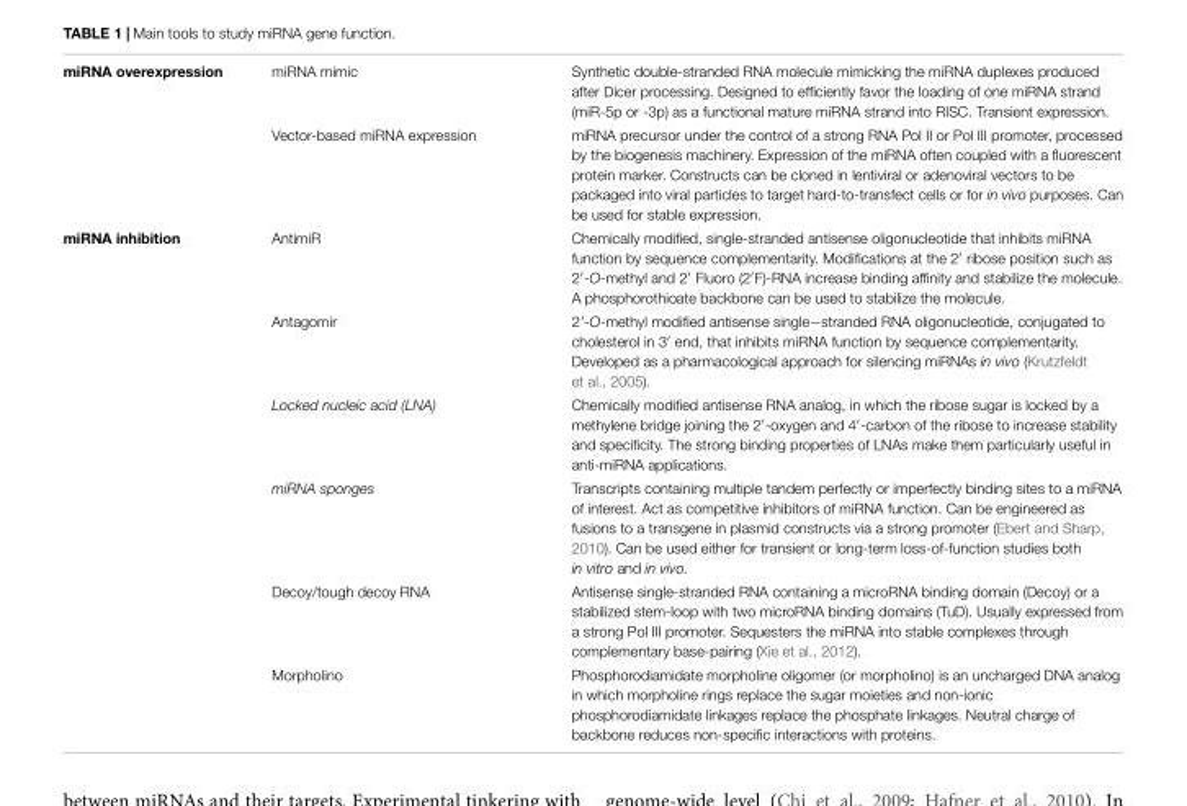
<table><tbody><tr><td rowspan="2">miRNA overexpression</td><td>miRNA mimic</td><td>Synthetic double-stranded RNA molecule mimicking the miRNA duplexes produced after Dicer processing. Designed to efficiently favor the loading of one miRNA strand (miR-5p or -3p) as a functional mature miRNA strand into RISC. Transient expression.</td></tr><tr><td>Vector-based miRNA expression</td><td>miRNA precursor under the control of a strong RNA Pol II or Pol III promoter, processed by the biogenesis machinery. Expression of the miRNA often coupled with a fluorescent protein marker. Constructs can be cloned in lentiviral or adenoviral vectors to be packaged into viral particles to target hard-to-transfect cells or for in vivo purposes. Can be used for stable expression.</td></tr><tr><td rowspan="6">miRNA inhibition</td><td>AntimiR</td><td>Chemically modified, single-stranded antisense oligonucleotide that inhibits miRNA function by sequence complementarity. Modifications at the 2′ ribose position such as 2′-O-methyl and 2′ Fluoro (2′F)-RNA increase binding affinity and stabilize the molecule. A phosphorothioate backbone can be used to stabilize the molecule.</td></tr><tr><td>Antagomir</td><td>2’-O-methyl modified antisense single−stranded RNA oligonucleotide, conjugated to cholesterol in 3′ end, that inhibits miRNA function by sequence complementarity. Developed as a pharmacological approach for silencing miRNAs in vivo (Krutzfeldt et al., 2005).</td></tr><tr><td>Locked nucleic acid (LNA)</td><td>Chemically modified antisense RNA analog, in which the ribose sugar is locked by a methylene bridge joining the 2′-oxygen and 4′-carbon of the ribose to increase stability and specificity. The strong binding properties of LNAs make them particularly useful in anti-miRNA applications.</td></tr><tr><td>miRNA sponges</td><td>Transcripts containing multiple tandem perfectly or imperfectly binding sites to a miRNA of interest. Act as competitive inhibitors of miRNA function. Can be engineered as fusions to a transgene in plasmid constructs via a strong promoter (Ebert and Sharp, 2010). Can be used either for transient or long-term loss-of-function studies both in vitro and in vivo.</td></tr><tr><td>Decoy/tough decoy RNA</td><td>Antisense single-stranded RNA containing a microRNA binding domain (Decoy) or a stabilized stem-loop with two microRNA binding domains (TuD). Usually expressed from a strong Pol III promoter. Sequesters the miRNA into stable complexes through complementary base-pairing (Xie et al., 2012).</td></tr><tr><td>Morpholino</td><td>Phosphorodiamidate morpholine oligomer (or morpholino) is an uncharged DNA analog in which morpholine rings replace the sugar moieties and non-ionic phosphorodiamidate linkages replace the phosphate linkages. Neutral charge of backbone reduces non-specific interactions with proteins.</td></tr></tbody></table>